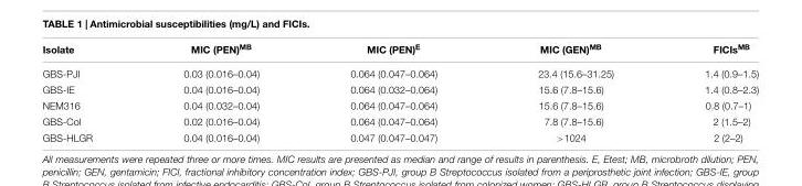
<table><thead><tr><td>Isolate</td><td>MIC (PEN)<sup>MB</sup></td><td>MIC (PEN)<sup>E</sup></td><td>MIC (GEN)<sup>MB</sup></td><td>FICIs<sup>MB</sup></td></tr></thead><tbody><tr><td>GBS-PJI</td><td>0.03 (0.016–0.04)</td><td>0.064 (0.047–0.064)</td><td>23.4 (15.6–31.25)</td><td>1.4 (0.9–1.5)</td></tr><tr><td>GBS-IE</td><td>0.04 (0.016–0.04)</td><td>0.064 (0.032–0.064)</td><td>15.6 (7.8–15.6)</td><td>1.4 (0.8–2.3)</td></tr><tr><td>NEM316</td><td>0.04 (0.032–0.04)</td><td>0.064 (0.047–0.064)</td><td>15.6 (7.8–15.6)</td><td>0.8 (0.7–1)</td></tr><tr><td>GBS-Col</td><td>0.02 (0.016–0.04)</td><td>0.064 (0.047–0.064)</td><td>7.8 (7.8–15.6)</td><td>2 (1.5–2)</td></tr><tr><td>GBS-HLGR</td><td>0.04 (0.016–0.04)</td><td>0.047 (0.047–0.047)</td><td>&gt;1024</td><td>2 (2–2)</td></tr></tbody></table>